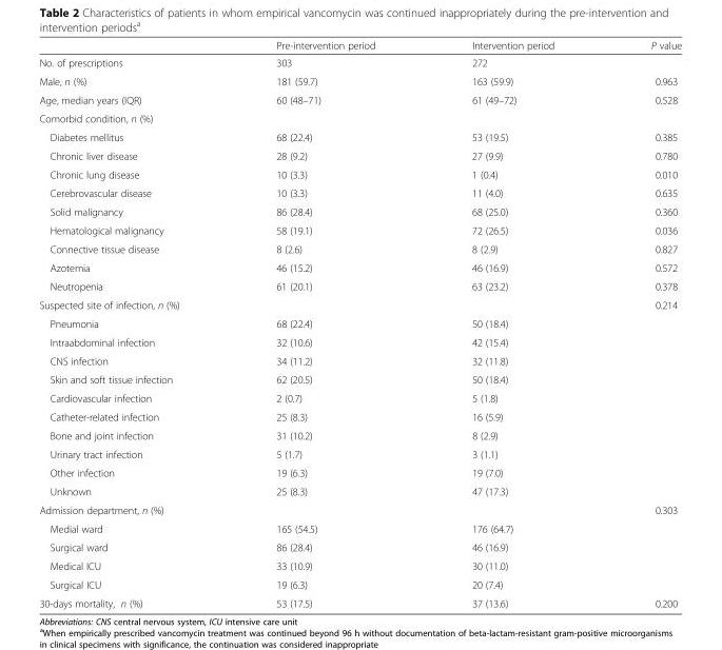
<table><thead><tr><td></td><td>Pre-intervention period</td><td>Intervention period</td><td>P value</td></tr></thead><tbody><tr><td>No. of prescriptions</td><td>303</td><td>272</td><td></td></tr><tr><td>Male, n (%)</td><td>181 (59.7)</td><td>163 (59.9)</td><td>0.963</td></tr><tr><td>Age, median years (IQR)</td><td>60 (48–71)</td><td>61 (49–72)</td><td>0.528</td></tr><tr><td colspan="4">Comorbid condition, n (%)</td></tr><tr><td>Diabetes mellitus</td><td>68 (22.4)</td><td>53 (19.5)</td><td>0.385</td></tr><tr><td>Chronic liver disease</td><td>28 (9.2)</td><td>27 (9.9)</td><td>0.780</td></tr><tr><td>Chronic lung disease</td><td>10 (3.3)</td><td>1 (0.4)</td><td>0.010</td></tr><tr><td>Cerebrovascular disease</td><td>10 (3.3)</td><td>11 (4.0)</td><td>0.635</td></tr><tr><td>Solid malignancy</td><td>86 (28.4)</td><td>68 (25.0)</td><td>0.360</td></tr><tr><td>Hematological malignancy</td><td>58 (19.1)</td><td>72 (26.5)</td><td>0.036</td></tr><tr><td>Connective tissue disease</td><td>8 (2.6)</td><td>8 (2.9)</td><td>0.827</td></tr><tr><td>Azotemia</td><td>46 (15.2)</td><td>46 (16.9)</td><td>0.572</td></tr><tr><td>Neutropenia</td><td>61 (20.1)</td><td>63 (23.2)</td><td>0.378</td></tr><tr><td>Suspected site of infection, n (%)</td><td></td><td></td><td>0.214</td></tr><tr><td>Pneumonia</td><td>68 (22.4)</td><td>50 (18.4)</td><td></td></tr><tr><td>Intraabdominal infection</td><td>32 (10.6)</td><td>42 (15.4)</td><td></td></tr><tr><td>CNS infection</td><td>34 (11.2)</td><td>32 (11.8)</td><td></td></tr><tr><td>Skin and soft tissue infection</td><td>62 (20.5)</td><td>50 (18.4)</td><td></td></tr><tr><td>Cardiovascular infection</td><td>2 (0.7)</td><td>5 (1.8)</td><td></td></tr><tr><td>Catheter-related infection</td><td>25 (8.3)</td><td>16 (5.9)</td><td></td></tr><tr><td>Bone and joint infection</td><td>31 (10.2)</td><td>8 (2.9)</td><td></td></tr><tr><td>Urinary tract infection</td><td>5 (1.7)</td><td>3 (1.1)</td><td></td></tr><tr><td>Other infection</td><td>19 (6.3)</td><td>19 (7.0)</td><td></td></tr><tr><td>Unknown</td><td>25 (8.3)</td><td>47 (17.3)</td><td></td></tr><tr><td>Admission department, n (%)</td><td></td><td></td><td>0.303</td></tr><tr><td>Medial ward</td><td>165 (54.5)</td><td>176 (64.7)</td><td></td></tr><tr><td>Surgical ward</td><td>86 (28.4)</td><td>46 (16.9)</td><td></td></tr><tr><td>Medical ICU</td><td>33 (10.9)</td><td>30 (11.0)</td><td></td></tr><tr><td>Surgical ICU</td><td>19 (6.3)</td><td>20 (7.4)</td><td></td></tr><tr><td>30-days mortality, n (%)</td><td>53 (17.5)</td><td>37 (13.6)</td><td>0.200</td></tr></tbody></table>